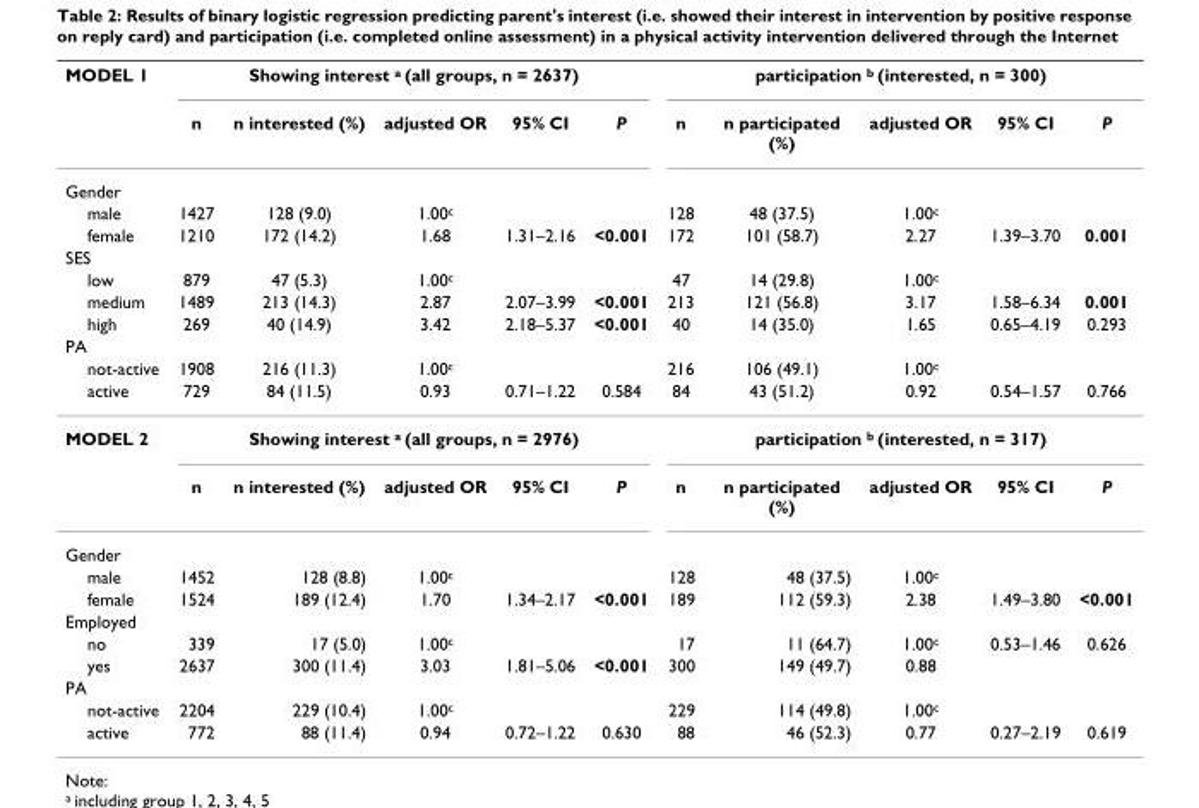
<table><thead><tr><td rowspan="12">MODEL 1 Gender male female SES low medium high PA not-active active</td><td colspan="5">Showing interest <sup>a</sup> (all groups, n = 2637)</td><td colspan="5">participation <sup>b</sup> (interested, n = 300)</td></tr><tr><td rowspan="11">n 1427 1210 879 1489 269 1908 729</td><td rowspan="11">n interested (%) 128 (9.0) 172 (14.2) 47 (5.3) 213 (14.3) 40 (14.9) 216 (11.3) 84 (11.5)</td><td rowspan="11">adjusted OR 1.00c 1.68 1.00c 2.87 3.42 1.00c 0.93</td><td rowspan="11">95% CI 1.31–2.16 2.07–3.99 2.18–5.37 0.71–1.22</td><td rowspan="11">P &lt;0.001 &lt;0.001 &lt;0.001 0.584</td><td rowspan="11">n 128 172 47 213 40 216 84</td><td rowspan="11">n participated (%) 48 (37.5) 101 (58.7) 14 (29.8) 121 (56.8) 14 (35.0) 106 (49.1) 43 (51.2)</td><td rowspan="11">adjusted OR 1.00c 2.27 1.00c 3.17 1.65 1.00c 0.92</td><td rowspan="11">95% CI 1.39–3.70 1.58–6.34 0.65–4.19 0.54–1.57</td><td rowspan="11">P 0.001 0.001 0.293 0.766</td></tr><tr></tr><tr></tr><tr></tr><tr></tr><tr></tr><tr></tr><tr></tr><tr></tr><tr></tr><tr></tr></thead><tbody><tr><td rowspan="2">MODEL 2</td><td colspan="5">Showing interest <sup>a</sup> (all groups, n = 2976)</td><td colspan="5">participation <sup>b</sup> (interested, n = 317)</td></tr><tr><td>n</td><td>n interested (%)</td><td>adjusted OR</td><td>95% CI</td><td>P</td><td>n</td><td>n participated (%)</td><td>adjusted OR</td><td>95% CI</td><td>P</td></tr><tr><td colspan="11">Gender</td></tr><tr><td>male</td><td>1452</td><td>128 (8.8)</td><td>1.00<sup>c</sup></td><td></td><td></td><td>128</td><td>48 (37.5)</td><td>1.00<sup>c</sup></td><td></td><td></td></tr><tr><td>female</td><td>1524</td><td>189 (12.4)</td><td>1.70</td><td>1.34–2.17</td><td>&lt;0.001</td><td>189</td><td>112 (59.3)</td><td>2.38</td><td>1.49–3.80</td><td>&lt;0.001</td></tr><tr><td colspan="11">Employed</td></tr><tr><td>no</td><td>339</td><td>17 (5.0)</td><td>1.00<sup>c</sup></td><td></td><td></td><td>17</td><td>11 (64.7)</td><td>1.00<sup>c</sup></td><td>0.53–1.46</td><td>0.626</td></tr><tr><td>yes</td><td>2637</td><td>300 (11.4)</td><td>3.03</td><td>1.81–5.06</td><td>&lt;0.001</td><td>300</td><td>149 (49.7)</td><td>0.88</td><td></td><td></td></tr><tr><td colspan="11">PA</td></tr><tr><td>not-active</td><td>2204</td><td>229 (10.4)</td><td>1.00<sup>c</sup></td><td></td><td></td><td>229</td><td>114 (49.8)</td><td>1.00<sup>c</sup></td><td></td><td></td></tr><tr><td>active</td><td>772</td><td>88 (11.4)</td><td>0.94</td><td>0.72–1.22</td><td>0.630</td><td>88</td><td>46 (52.3)</td><td>0.77</td><td>0.27–2.19</td><td>0.619</td></tr></tbody></table>